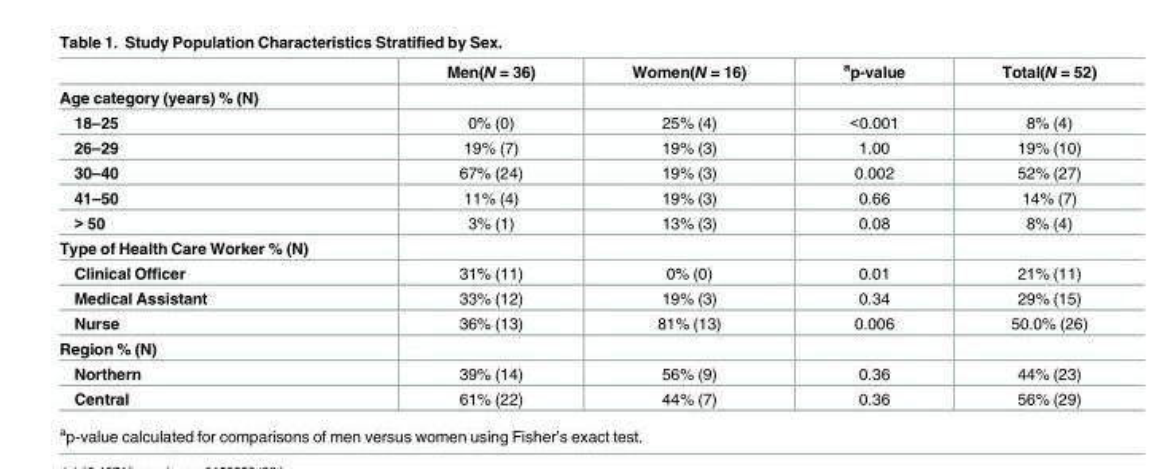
<table><thead><tr><td></td><td>Men(N = 36)</td><td>Women(N = 16)</td><td><sup>a</sup>p-value</td><td>Total(N = 52)</td></tr></thead><tbody><tr><td colspan="5">Age category (years) % (N)</td></tr><tr><td>18–25</td><td>0% (0)</td><td>25% (4)</td><td>&lt;0.001</td><td>8% (4)</td></tr><tr><td>26–29</td><td>19% (7)</td><td>19% (3)</td><td>1.00</td><td>19% (10)</td></tr><tr><td>30–40</td><td>67% (24)</td><td>19% (3)</td><td>0.002</td><td>52% (27)</td></tr><tr><td>41–50</td><td>11% (4)</td><td>19% (3)</td><td>0.66</td><td>14% (7)</td></tr><tr><td>&gt; 50</td><td>3% (1)</td><td>13% (3)</td><td>0.08</td><td>8% (4)</td></tr><tr><td colspan="5">Type of Health Care Worker % (N)</td></tr><tr><td>Clinical Officer</td><td>31% (11)</td><td>0% (0)</td><td>0.01</td><td>21% (11)</td></tr><tr><td>Medical Assistant</td><td>33% (12)</td><td>19% (3)</td><td>0.34</td><td>29% (15)</td></tr><tr><td>Nurse</td><td>36% (13)</td><td>81% (13)</td><td>0.006</td><td>50.0% (26)</td></tr><tr><td colspan="5">Region % (N)</td></tr><tr><td>Northern</td><td>39% (14)</td><td>56% (9)</td><td>0.36</td><td>44% (23)</td></tr><tr><td>Central</td><td>61% (22)</td><td>44% (7)</td><td>0.36</td><td>56% (29)</td></tr></tbody></table>